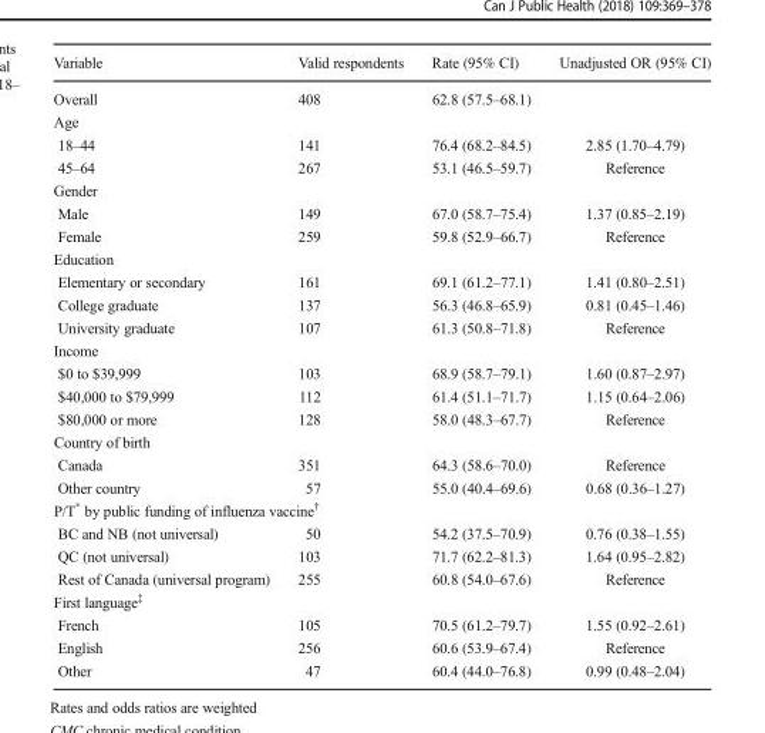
<table><thead><tr><td>Variable</td><td>Valid respondents</td><td>Rate (95% CI)</td><td>Unadjusted OR (95% CI)</td></tr></thead><tbody><tr><td>Overall</td><td>408</td><td>62.8 (57.5–68.1)</td><td></td></tr><tr><td colspan="4">Age</td></tr><tr><td>18–44</td><td>141</td><td>76.4 (68.2–84.5)</td><td>2.85 (1.70–4.79)</td></tr><tr><td>45–64</td><td>267</td><td>53.1 (46.5–59.7)</td><td>Reference</td></tr><tr><td colspan="4">Gender</td></tr><tr><td>Male</td><td>149</td><td>67.0 (58.7–75.4)</td><td>1.37 (0.85–2.19)</td></tr><tr><td>Female</td><td>259</td><td>59.8 (52.9–66.7)</td><td>Reference</td></tr><tr><td colspan="4">Education</td></tr><tr><td>Elementary or secondary</td><td>161</td><td>69.1 (61.2–77.1)</td><td>1.41 (0.80–2.51)</td></tr><tr><td>College graduate</td><td>137</td><td>56.3 (46.8–65.9)</td><td>0.81 (0.45–1.46)</td></tr><tr><td>University graduate</td><td>107</td><td>61.3 (50.8–71.8)</td><td>Reference</td></tr><tr><td colspan="4">Income</td></tr><tr><td>$0 to $39,999</td><td>103</td><td>68.9 (58.7–79.1)</td><td>1.60 (0.87–2.97)</td></tr><tr><td>$40,000 to $79,999</td><td>112</td><td>61.4 (51.1–71.7)</td><td>1.15 (0.64–2.06)</td></tr><tr><td>$80,000 or more</td><td>128</td><td>58.0 (48.3–67.7)</td><td>Reference</td></tr><tr><td colspan="4">Country of birth</td></tr><tr><td>Canada</td><td>351</td><td>64.3 (58.6–70.0)</td><td>Reference</td></tr><tr><td>Other country</td><td>57</td><td>55.0 (40.4–69.6)</td><td>0.68 (0.36–1.27)</td></tr><tr><td colspan="4">P/T* by public funding of influenza vaccine<sup>†</sup></td></tr><tr><td>BC and NB (not universal)</td><td>50</td><td>54.2 (37.5–70.9)</td><td>0.76 (0.38–1.55)</td></tr><tr><td>QC (not universal)</td><td>103</td><td>71.7 (62.2–81.3)</td><td>1.64 (0.95–2.82)</td></tr><tr><td>Rest of Canada (universal program)</td><td>255</td><td>60.8 (54.0–67.6)</td><td>Reference</td></tr><tr><td colspan="4">First language<sup>‡</sup></td></tr><tr><td>French</td><td>105</td><td>70.5 (61.2–79.7)</td><td>1.55 (0.92–2.61)</td></tr><tr><td>English</td><td>256</td><td>60.6 (53.9–67.4)</td><td>Reference</td></tr><tr><td>Other</td><td>47</td><td>60.4 (44.0–76.8)</td><td>0.99 (0.48–2.04)</td></tr></tbody></table>